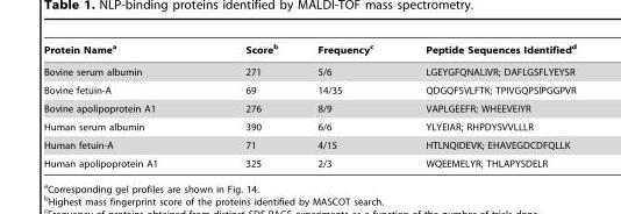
<table><thead><tr><td>Protein Name<sup>a</sup></td><td>Score<sup>b</sup></td><td>Frequency<sup>c</sup></td><td>Peptide Sequences Identified<sup>d</sup></td></tr></thead><tbody><tr><td>Bovine serum albumin</td><td>271</td><td>5/6</td><td>LGEYGFQNALIVR; DAFLGSFLYEYSR</td></tr><tr><td>Bovine fetuin-A</td><td>69</td><td>14/35</td><td>QDGQFSVLFTK; TPIVGQPSIPGGPVR</td></tr><tr><td>Bovine apolipoprotein A1</td><td>276</td><td>8/9</td><td>VAPLGEEFR; WHEEVEIYR</td></tr><tr><td>Human serum albumin</td><td>390</td><td>6/6</td><td>YLYEIAR; RHPDYSVVLLLR</td></tr><tr><td>Human fetuin-A</td><td>71</td><td>4/15</td><td>HTLNQIDEVK; EHAVEGDCDFQLLK</td></tr><tr><td>Human apolipoprotein A1</td><td>325</td><td>2/3</td><td>WQEEMELYR; THLAPYSDELR</td></tr></tbody></table>